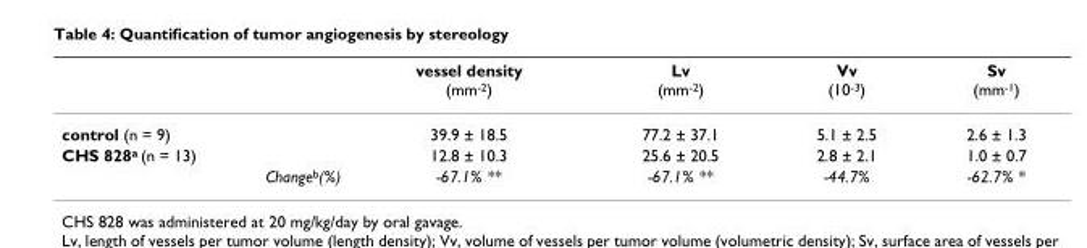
<table><thead><tr><td></td><td>vessel density (mm<sup>-2</sup>)</td><td>Lv (mm<sup>-2</sup>)</td><td>Vv (10<sup>-3</sup>)</td><td>Sv (mm<sup>-1</sup>)</td></tr></thead><tbody><tr><td>control (n = 9)</td><td>39.9 ± 18.5</td><td>77.2 ± 37.1</td><td>5.1 ± 2.5</td><td>2.6 ± 1.3</td></tr><tr><td>CHS 828<sup>a</sup> (n = 13)</td><td>12.8 ± 10.3</td><td>25.6 ± 20.5</td><td>2.8 ± 2.1</td><td>1.0 ± 0.7</td></tr><tr><td>Change<sup>b</sup>(%)</td><td>-67.1% **</td><td>-67.1% **</td><td>-44.7%</td><td>-62.7% *</td></tr></tbody></table>